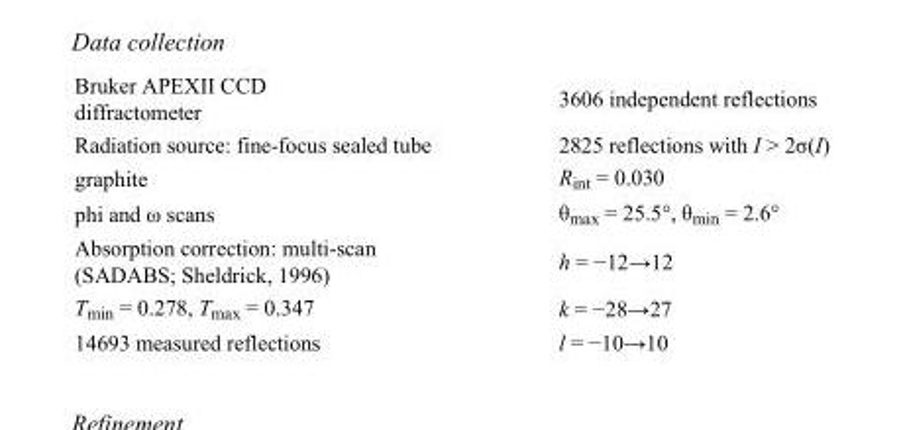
<table><tbody><tr><td>Bruker APEXII CCD diffractometer</td><td>3606 independent reflections</td></tr><tr><td>Radiation source: fine-focus sealed tube</td><td>2825 reflections with I &gt; 2σ(I)</td></tr><tr><td>graphite</td><td>R<sub>int</sub> = 0.030</td></tr><tr><td>phi and ω scans</td><td>θ<sub>max</sub> = 25.5°, θ<sub>min</sub> = 2.6°</td></tr><tr><td>Absorption correction: multi-scan (SADABS; Sheldrick, 1996)</td><td>h = −12→12</td></tr><tr><td>T<sub>min</sub> = 0.278, T<sub>max</sub> = 0.347</td><td>k = −28→27</td></tr><tr><td>14693 measured reflections</td><td>l = −10→10</td></tr></tbody></table>